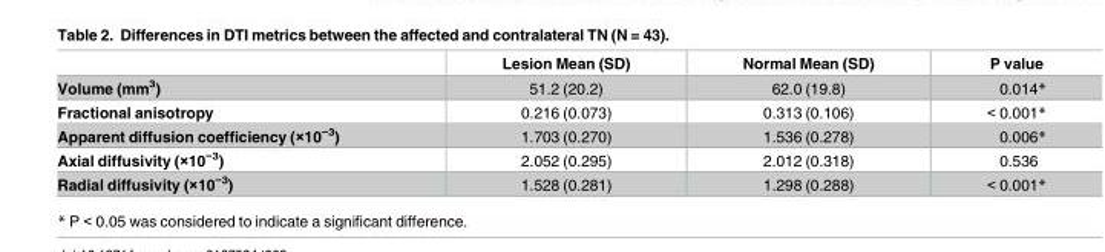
<table><thead><tr><td></td><td>Lesion Mean (SD)</td><td>Normal Mean (SD)</td><td>P value</td></tr></thead><tbody><tr><td>Volume (mm<sup>3</sup>)</td><td>51.2 (20.2)</td><td>62.0 (19.8)</td><td>0.014*</td></tr><tr><td>Fractional anisotropy</td><td>0.216 (0.073)</td><td>0.313 (0.106)</td><td>&lt; 0.001*</td></tr><tr><td>Apparent diffusion coefficiency (×10<sup>−3</sup>)</td><td>1.703 (0.270)</td><td>1.536 (0.278)</td><td>0.006*</td></tr><tr><td>Axial diffusivity (×10<sup>−3</sup>)</td><td>2.052 (0.295)</td><td>2.012 (0.318)</td><td>0.536</td></tr><tr><td>Radial diffusivity (×10<sup>−3</sup>)</td><td>1.528 (0.281)</td><td>1.298 (0.288)</td><td>&lt; 0.001*</td></tr></tbody></table>